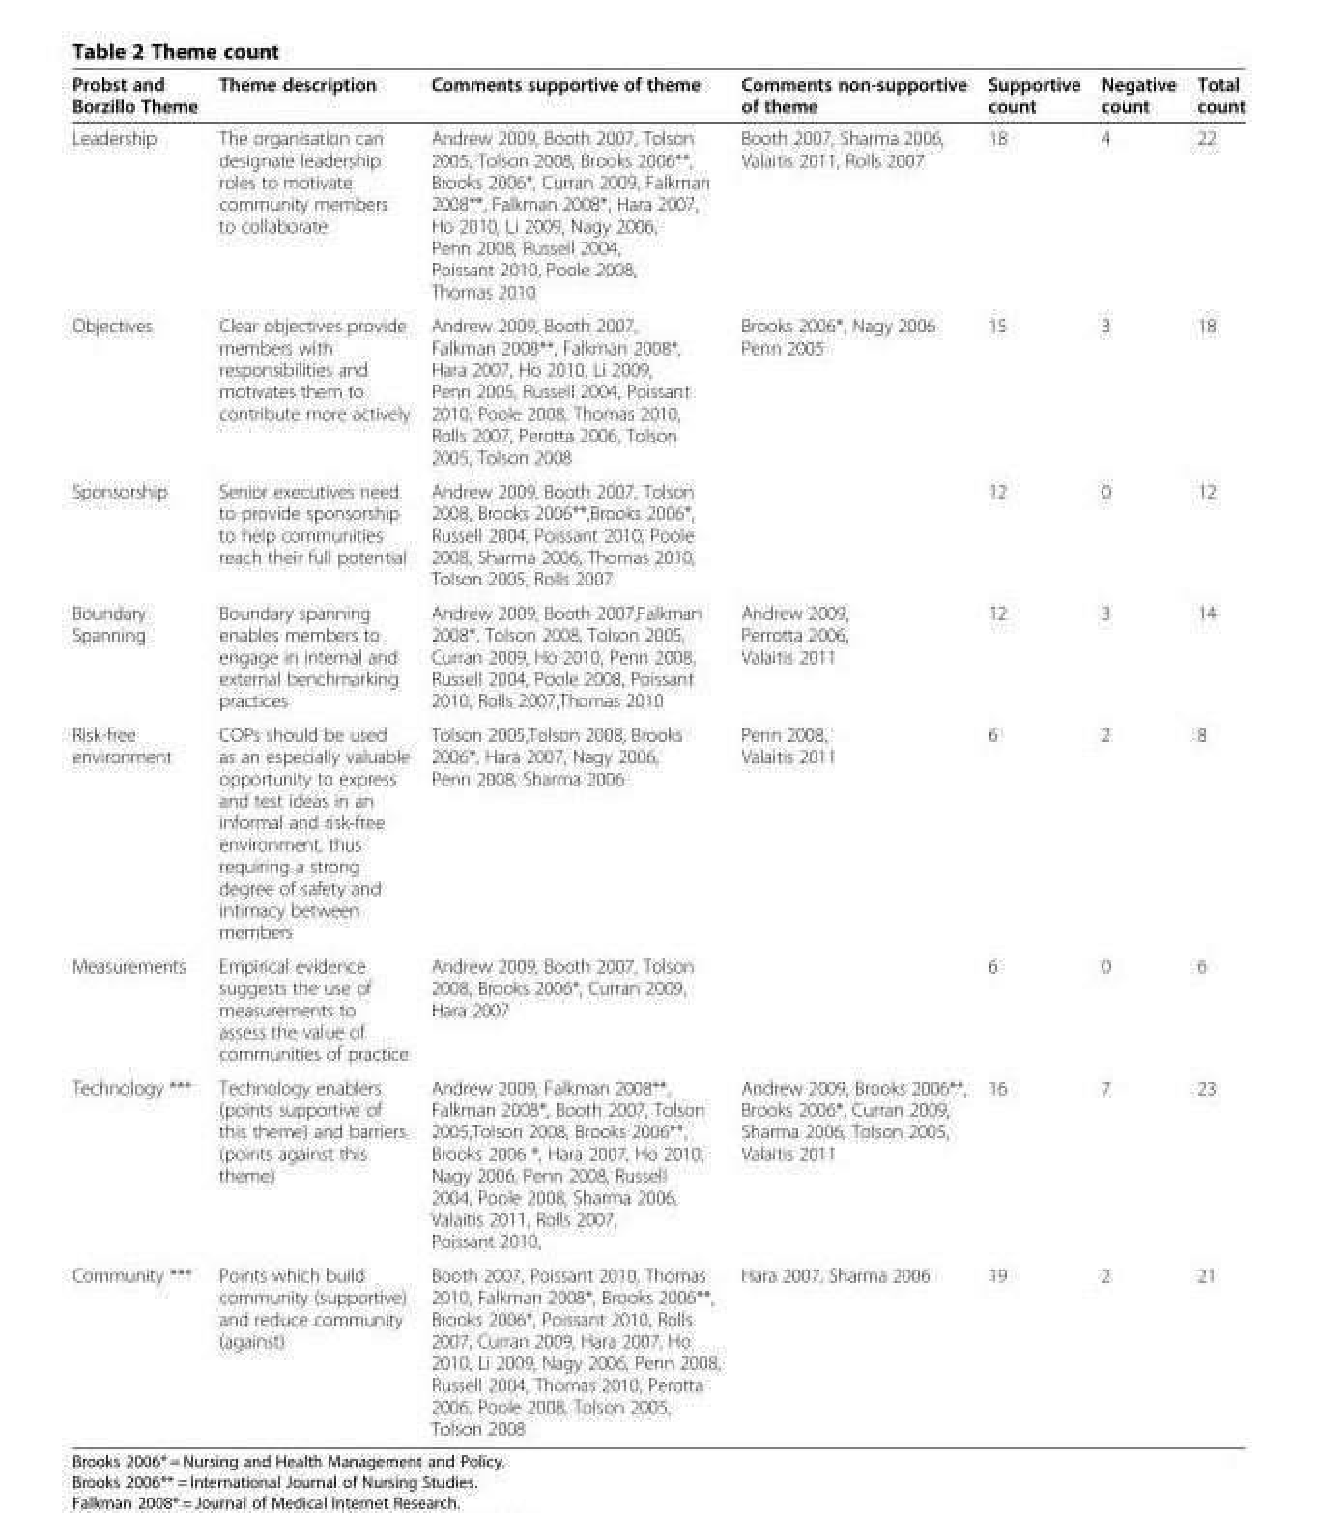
<table><thead><tr><td>Probst and Borzillo Theme</td><td>Theme description</td><td>Comments supportive of theme</td><td>Comments non-supportive of theme</td><td>Supportive count</td><td>Negative count</td><td>Total count</td></tr></thead><tbody><tr><td>Leadership</td><td>The organisation can designate leadership roles to motivate community members to collaborate</td><td>Andrew 2009, Booth 2007, Tolson 2005, Tolson 2008, Brooks 2006**, Brooks 2006*, Curran 2009, Falkman 2008**, Falkman 2008*, Hara 2007, Ho 2010, Li 2009, Nagy 2006, Penn 2008, Russell 2004, Poissant 2010, Poole 2008, Thomas 2010</td><td>Booth 2007, Sharma 2006, Valaitis 2011, Rolls 2007</td><td>18</td><td>4</td><td>22</td></tr><tr><td>Objectives</td><td>Clear objectives provide members with responsibilities and motivates them to contribute more actively</td><td>Andrew 2009, Booth 2007, Falkman 2008**, Falkman 2008*, Hara 2007, Ho 2010, Li 2009, Penn 2005, Russell 2004, Poissant 2010, Poole 2008, Thomas 2010, Rolls 2007, Perotta 2006, Tolson 2005, Tolson 2008</td><td>Brooks 2006*, Nagy 2006 Penn 2005</td><td>15</td><td>3</td><td>18</td></tr><tr><td>Sponsorship</td><td>Senior executives need to provide sponsorship to help communities reach their full potential</td><td>Andrew 2009, Booth 2007, Tolson 2008, Brooks 2006**,Brooks 2006*, Russell 2004, Poissant 2010, Poole 2008, Sharma 2006, Thomas 2010, Tolson 2005, Rolls 2007</td><td></td><td>12</td><td>0</td><td>12</td></tr><tr><td>Boundary Spanning</td><td>Boundary spanning enables members to engage in internal and external benchmarking practices</td><td>Andrew 2009, Booth 2007,Falkman 2008*, Tolson 2008, Tolson 2005, Curran 2009, Ho 2010, Penn 2008, Russell 2004, Poole 2008, Poissant 2010, Rolls 2007,Thomas 2010</td><td>Andrew 2009, Perrotta 2006, Valaitis 2011</td><td>12</td><td>3</td><td>14</td></tr><tr><td>Risk-free environment</td><td>COPs should be used as an especially valuable opportunity to express and test ideas in an informal and risk-free environment, thus requiring a strong degree of safety and intimacy between members</td><td>Tolson 2005,Tolson 2008, Brooks 2006*, Hara 2007, Nagy 2006, Penn 2008, Sharma 2006</td><td>Penn 2008, Valaitis 2011</td><td>6</td><td>2</td><td>8</td></tr><tr><td>Measurements</td><td>Empirical evidence suggests the use of measurements to assess the value of communities of practice</td><td>Andrew 2009, Booth 2007, Tolson 2008, Brooks 2006*, Curran 2009, Hara 2007</td><td></td><td>6</td><td>0</td><td>6</td></tr><tr><td>Technology ***</td><td>Technology enablers (points supportive of this theme) and barriers (points against this theme)</td><td>Andrew 2009, Falkman 2008**, Falkman 2008*, Booth 2007, Tolson 2005,Tolson 2008, Brooks 2006**, Brooks 2006 *, Hara 2007, Ho 2010, Nagy 2006, Penn 2008, Russell 2004, Poole 2008, Sharma 2006, Valaitis 2011, Rolls 2007, Poissant 2010,</td><td>Andrew 2009, Brooks 2006**, Brooks 2006*, Curran 2009, Sharma 2006, Tolson 2005, Valaitis 2011</td><td>16</td><td>7</td><td>23</td></tr><tr><td>Community ***</td><td>Points which build community (supportive) and reduce community (against)</td><td>Booth 2007, Poissant 2010, Thomas 2010, Falkman 2008*, Brooks 2006**, Brooks 2006*, Poissant 2010, Rolls 2007, Curran 2009, Hara 2007, Ho 2010, Li 2009, Nagy 2006, Penn 2008, Russell 2004, Thomas 2010, Perotta 2006, Poole 2008, Tolson 2005, Tolson 2008</td><td>Hara 2007, Sharma 2006</td><td>19</td><td>2</td><td>21</td></tr></tbody></table>